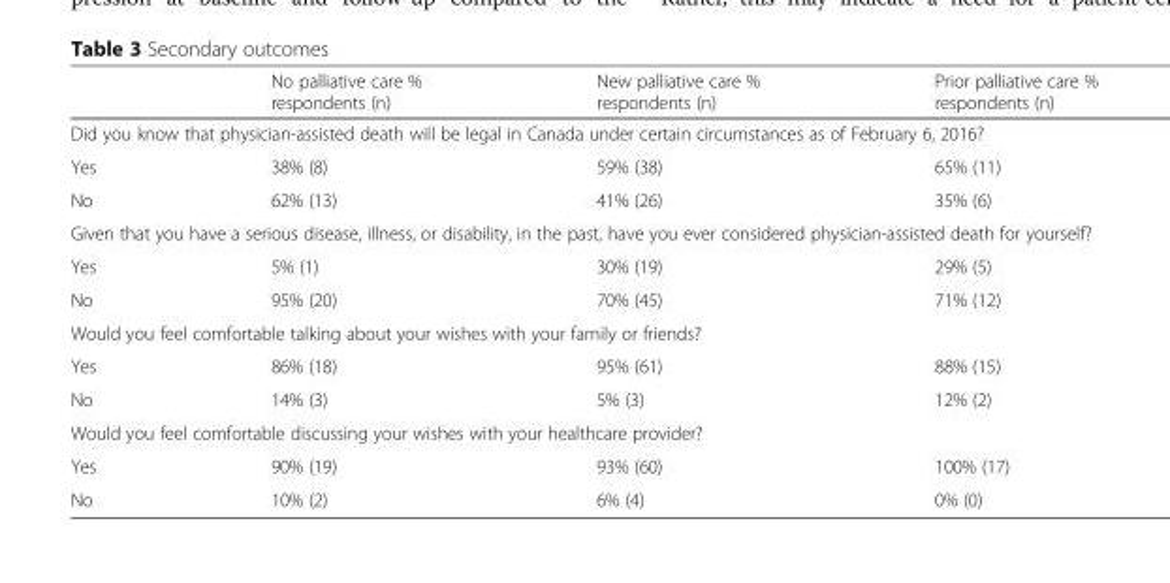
<table><thead><tr><td></td><td>No palliative care % respondents (n)</td><td>New palliative care % respondents (n)</td><td>Prior palliative care % respondents (n)</td></tr></thead><tbody><tr><td colspan="4">Did you know that physician-assisted death will be legal in Canada under certain circumstances as of February 6, 2016?</td></tr><tr><td>Yes</td><td>38% (8)</td><td>59% (38)</td><td>65% (11)</td></tr><tr><td>No</td><td>62% (13)</td><td>41% (26)</td><td>35% (6)</td></tr><tr><td colspan="4">Given that you have a serious disease, illness, or disability, in the past, have you ever considered physician-assisted death for yourself?</td></tr><tr><td>Yes</td><td>5% (1)</td><td>30% (19)</td><td>29% (5)</td></tr><tr><td>No</td><td>95% (20)</td><td>70% (45)</td><td>71% (12)</td></tr><tr><td colspan="4">Would you feel comfortable talking about your wishes with your family or friends?</td></tr><tr><td>Yes</td><td>86% (18)</td><td>95% (61)</td><td>88% (15)</td></tr><tr><td>No</td><td>14% (3)</td><td>5% (3)</td><td>12% (2)</td></tr><tr><td colspan="4">Would you feel comfortable discussing your wishes with your healthcare provider?</td></tr><tr><td>Yes</td><td>90% (19)</td><td>93% (60)</td><td>100% (17)</td></tr><tr><td>No</td><td>10% (2)</td><td>6% (4)</td><td>0% (0)</td></tr></tbody></table>